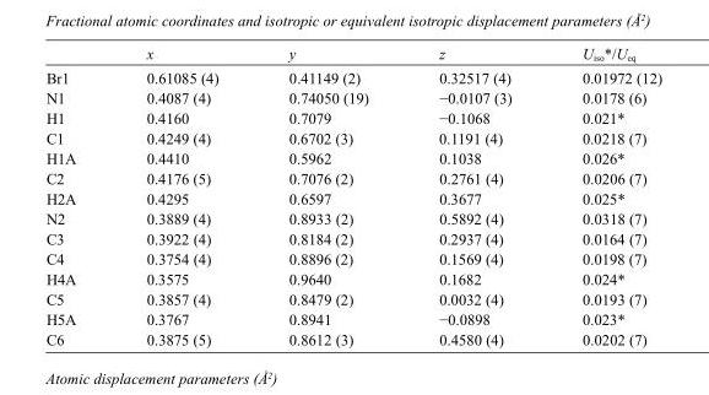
<table><thead><tr><td></td><td>x</td><td>y</td><td>z</td><td>U<sub>iso</sub>*/U<sub>eq</sub></td></tr></thead><tbody><tr><td>Br1</td><td>0.61085 (4)</td><td>0.41149 (2)</td><td>0.32517 (4)</td><td>0.01972 (12)</td></tr><tr><td>N1</td><td>0.4087 (4)</td><td>0.74050 (19)</td><td>−0.0107 (3)</td><td>0.0178 (6)</td></tr><tr><td>H1</td><td>0.4160</td><td>0.7079</td><td>−0.1068</td><td>0.021*</td></tr><tr><td>C1</td><td>0.4249 (4)</td><td>0.6702 (3)</td><td>0.1191 (4)</td><td>0.0218 (7)</td></tr><tr><td>H1A</td><td>0.4410</td><td>0.5962</td><td>0.1038</td><td>0.026*</td></tr><tr><td>C2</td><td>0.4176 (5)</td><td>0.7076 (2)</td><td>0.2761 (4)</td><td>0.0206 (7)</td></tr><tr><td>H2A</td><td>0.4295</td><td>0.6597</td><td>0.3677</td><td>0.025*</td></tr><tr><td>N2</td><td>0.3889 (4)</td><td>0.8933 (2)</td><td>0.5892 (4)</td><td>0.0318 (7)</td></tr><tr><td>C3</td><td>0.3922 (4)</td><td>0.8184 (2)</td><td>0.2937 (4)</td><td>0.0164 (7)</td></tr><tr><td>C4</td><td>0.3754 (4)</td><td>0.8896 (2)</td><td>0.1569 (4)</td><td>0.0198 (7)</td></tr><tr><td>H4A</td><td>0.3575</td><td>0.9640</td><td>0.1682</td><td>0.024*</td></tr><tr><td>C5</td><td>0.3857 (4)</td><td>0.8479 (2)</td><td>0.0032 (4)</td><td>0.0193 (7)</td></tr><tr><td>H5A</td><td>0.3767</td><td>0.8941</td><td>−0.0898</td><td>0.023*</td></tr><tr><td>C6</td><td>0.3875 (5)</td><td>0.8612 (3)</td><td>0.4580 (4)</td><td>0.0202 (7)</td></tr></tbody></table>